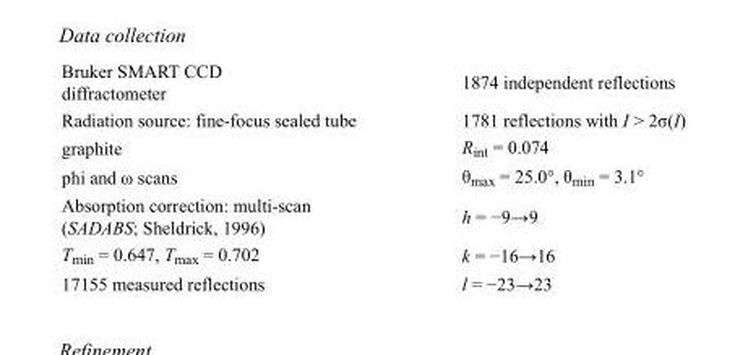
<table><tbody><tr><td>Bruker SMART CCD diffractometer</td><td>1874 independent reflections</td></tr><tr><td>Radiation source: fine-focus sealed tube</td><td>1781 reflections with I &gt; 2σ(I)</td></tr><tr><td>graphite</td><td>R<sub>int</sub> = 0.074</td></tr><tr><td>phi and ω scans</td><td>θ<sub>max</sub> = 25.0°, θ<sub>min</sub> = 3.1°</td></tr><tr><td>Absorption correction: multi-scan (SADABS; Sheldrick, 1996)</td><td>h = −9→9</td></tr><tr><td>T<sub>min</sub> = 0.647, T<sub>max</sub> = 0.702</td><td>k = −16→16</td></tr><tr><td>17155 measured reflections</td><td>l = −23→23</td></tr></tbody></table>